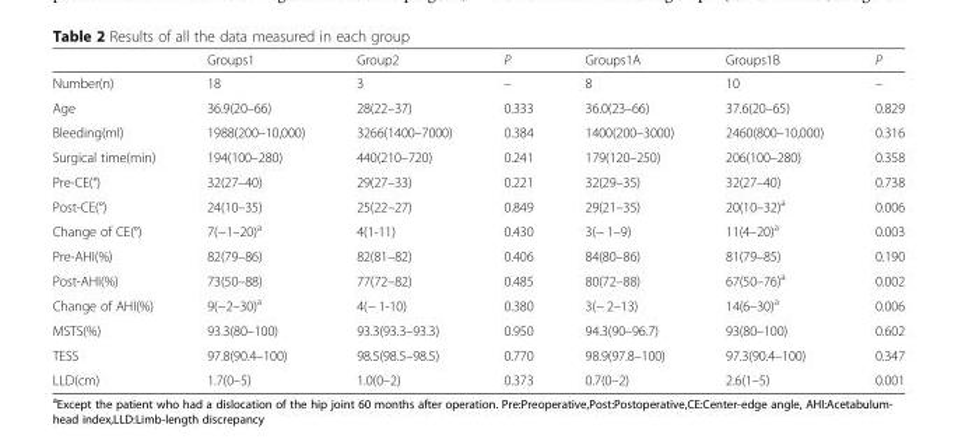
<table><thead><tr><td></td><td>Groups1</td><td>Group2</td><td>P</td><td>Groups1A</td><td>Groups1B</td><td>P</td></tr></thead><tbody><tr><td>Number(n)</td><td>18</td><td>3</td><td>–</td><td>8</td><td>10</td><td>–</td></tr><tr><td>Age</td><td>36.9(20–66)</td><td>28(22–37)</td><td>0.333</td><td>36.0(23–66)</td><td>37.6(20–65)</td><td>0.829</td></tr><tr><td>Bleeding(ml)</td><td>1988(200–10,000)</td><td>3266(1400–7000)</td><td>0.384</td><td>1400(200–3000)</td><td>2460(800–10,000)</td><td>0.316</td></tr><tr><td>Surgical time(min)</td><td>194(100–280)</td><td>440(210–720)</td><td>0.241</td><td>179(120–250)</td><td>206(100–280)</td><td>0.358</td></tr><tr><td>Pre-CE(°)</td><td>32(27–40)</td><td>29(27–33)</td><td>0.221</td><td>32(29–35)</td><td>32(27–40)</td><td>0.738</td></tr><tr><td>Post-CE(°)</td><td>24(10–35)</td><td>25(22–27)</td><td>0.849</td><td>29(21–35)</td><td>20(10–32)<sup>a</sup></td><td>0.006</td></tr><tr><td>Change of CE(°)</td><td>7(−1–20)<sup>a</sup></td><td>4(1-11)</td><td>0.430</td><td>3(− 1–9)</td><td>11(4–20)<sup>a</sup></td><td>0.003</td></tr><tr><td>Pre-AHI(%)</td><td>82(79–86)</td><td>82(81–82)</td><td>0.406</td><td>84(80–86)</td><td>81(79–85)</td><td>0.190</td></tr><tr><td>Post-AHI(%)</td><td>73(50–88)</td><td>77(72–82)</td><td>0.485</td><td>80(72–88)</td><td>67(50–76)<sup>a</sup></td><td>0.002</td></tr><tr><td>Change of AHI(%)</td><td>9(−2–30)<sup>a</sup></td><td>4(− 1-10)</td><td>0.380</td><td>3(− 2–13)</td><td>14(6–30)<sup>a</sup></td><td>0.006</td></tr><tr><td>MSTS(%)</td><td>93.3(80–100)</td><td>93.3(93.3–93.3)</td><td>0.950</td><td>94.3(90–96.7)</td><td>93(80–100)</td><td>0.602</td></tr><tr><td>TESS</td><td>97.8(90.4–100)</td><td>98.5(98.5–98.5)</td><td>0.770</td><td>98.9(97.8–100)</td><td>97.3(90.4–100)</td><td>0.347</td></tr><tr><td>LLD(cm)</td><td>1.7(0–5)</td><td>1.0(0–2)</td><td>0.373</td><td>0.7(0–2)</td><td>2.6(1–5)</td><td>0.001</td></tr></tbody></table>